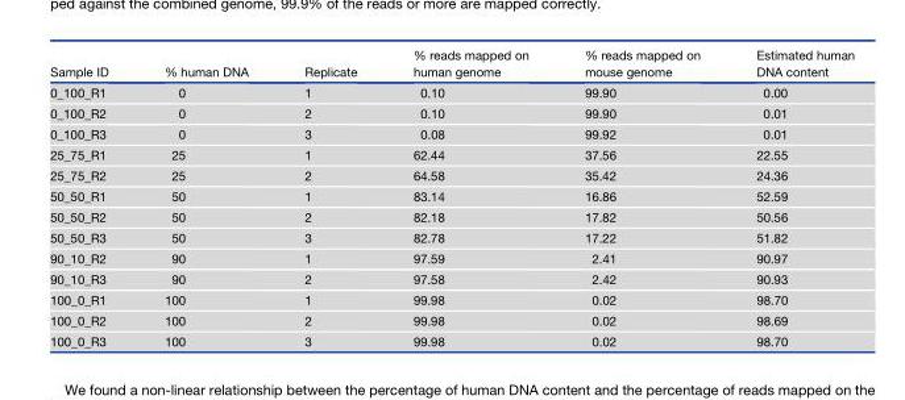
<table><thead><tr><td>Sample ID</td><td>% human DNA</td><td>Replicate</td><td>% reads mapped on human genome</td><td>% reads mapped on mouse genome</td><td>Estimated human DNA content</td></tr></thead><tbody><tr><td>0_100_R1</td><td>0</td><td>1</td><td>0.10</td><td>99.90</td><td>0.00</td></tr><tr><td>0_100_R2</td><td>0</td><td>2</td><td>0.10</td><td>99.90</td><td>0.01</td></tr><tr><td>0_100_R3</td><td>0</td><td>3</td><td>0.08</td><td>99.92</td><td>0.01</td></tr><tr><td>25_75_R1</td><td>25</td><td>1</td><td>62.44</td><td>37.56</td><td>22.55</td></tr><tr><td>25_75_R2</td><td>25</td><td>2</td><td>64.58</td><td>35.42</td><td>24.36</td></tr><tr><td>50_50_R1</td><td>50</td><td>1</td><td>83.14</td><td>16.86</td><td>52.59</td></tr><tr><td>50_50_R2</td><td>50</td><td>2</td><td>82.18</td><td>17.82</td><td>50.56</td></tr><tr><td>50_50_R3</td><td>50</td><td>3</td><td>82.78</td><td>17.22</td><td>51.82</td></tr><tr><td>90_10_R2</td><td>90</td><td>1</td><td>97.59</td><td>2.41</td><td>90.97</td></tr><tr><td>90_10_R3</td><td>90</td><td>2</td><td>97.58</td><td>2.42</td><td>90.93</td></tr><tr><td>100_0_R1</td><td>100</td><td>1</td><td>99.98</td><td>0.02</td><td>98.70</td></tr><tr><td>100_0_R2</td><td>100</td><td>2</td><td>99.98</td><td>0.02</td><td>98.69</td></tr><tr><td>100_0_R3</td><td>100</td><td>3</td><td>99.98</td><td>0.02</td><td>98.70</td></tr></tbody></table>